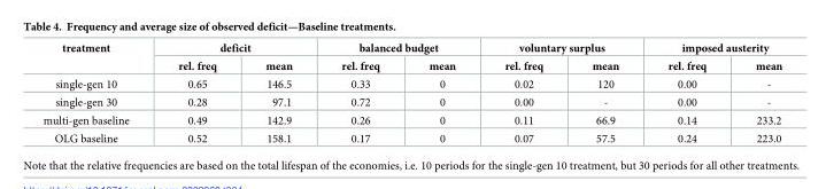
<table><thead><tr><td rowspan="2">treatment</td><td colspan="2">deficit</td><td colspan="2">balanced budget</td><td colspan="2">voluntary surplus</td><td colspan="2">imposed austerity</td></tr><tr><td>rel. freq</td><td>mean</td><td>rel. freq</td><td>mean</td><td>rel. freq</td><td>mean</td><td>rel. freq</td><td>mean</td></tr></thead><tbody><tr><td>single-gen 10</td><td>0.65</td><td>146.5</td><td>0.33</td><td>0</td><td>0.02</td><td>120</td><td>0.00</td><td>-</td></tr><tr><td>single-gen 30</td><td>0.28</td><td>97.1</td><td>0.72</td><td>0</td><td>0.00</td><td>-</td><td>0.00</td><td>-</td></tr><tr><td>multi-gen baseline</td><td>0.49</td><td>142.9</td><td>0.26</td><td>0</td><td>0.11</td><td>66.9</td><td>0.14</td><td>233.2</td></tr><tr><td>OLG baseline</td><td>0.52</td><td>158.1</td><td>0.17</td><td>0</td><td>0.07</td><td>57.5</td><td>0.24</td><td>223.0</td></tr></tbody></table>